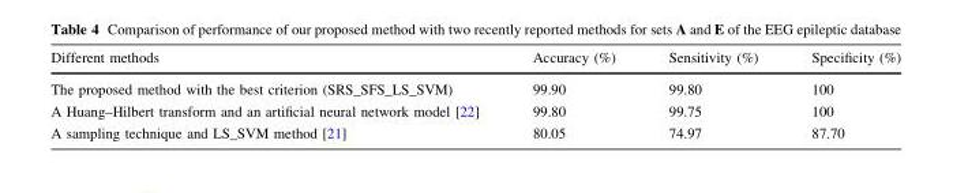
<table><thead><tr><td>Different methods</td><td>Accuracy (%)</td><td>Sensitivity (%)</td><td>Specificity (%)</td></tr></thead><tbody><tr><td>The proposed method with the best criterion (SRS_SFS_LS_SVM)</td><td>99.90</td><td>99.80</td><td>100</td></tr><tr><td>A Huang–Hilbert transform and an artificial neural network model [22]</td><td>99.80</td><td>99.75</td><td>100</td></tr><tr><td>A sampling technique and LS_SVM method [21]</td><td>80.05</td><td>74.97</td><td>87.70</td></tr></tbody></table>